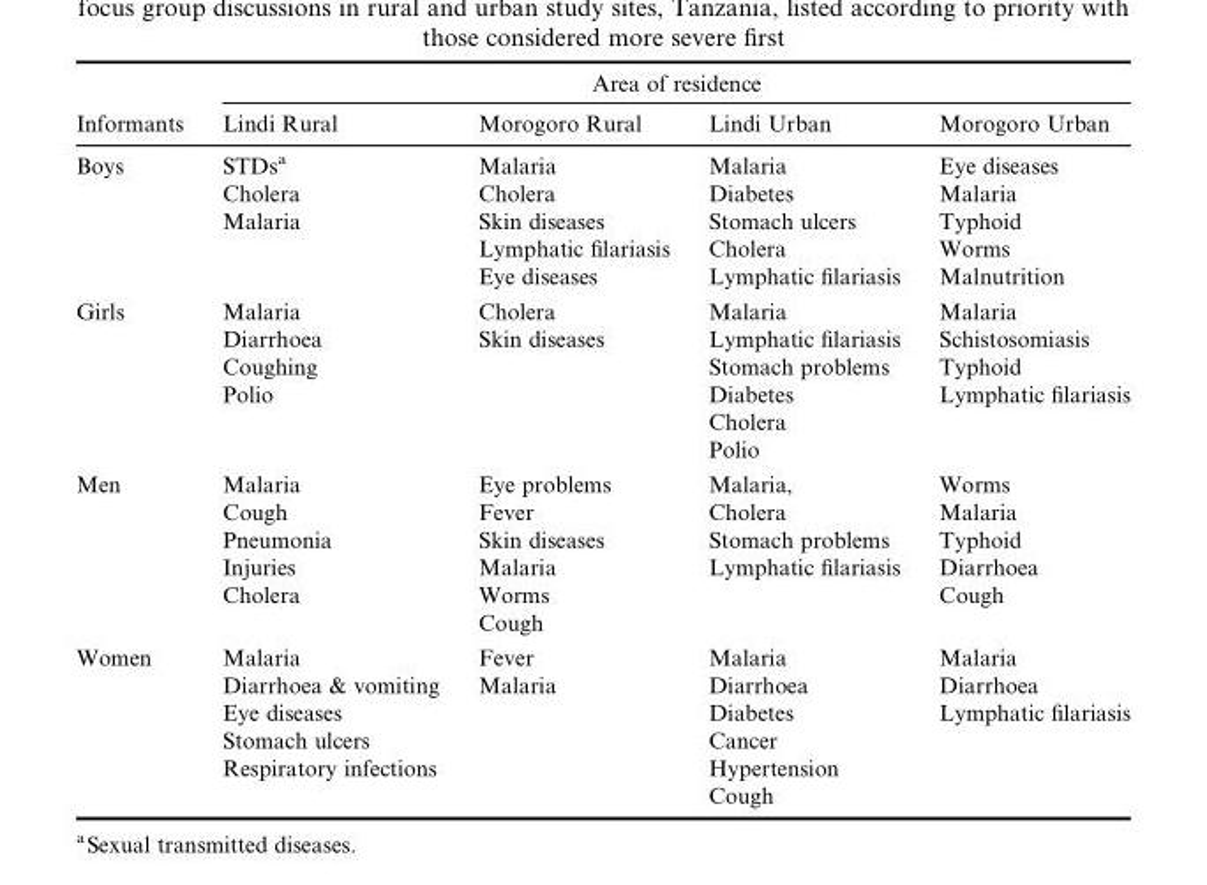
<table><thead><tr><td rowspan="2">Informants</td><td colspan="4">Area of residence</td></tr><tr><td>Lindi Rural</td><td>Morogoro Rural</td><td>Lindi Urban</td><td>Morogoro Urban</td></tr></thead><tbody><tr><td>Boys</td><td>STDs<sup>a</sup> Cholera Malaria</td><td>Malaria Cholera Skin diseases Lymphatic filariasis Eye diseases</td><td>Malaria Diabetes Stomach ulcers Cholera Lymphatic filariasis</td><td>Eye diseases Malaria Typhoid Worms Malnutrition</td></tr><tr><td>Girls</td><td>Malaria Diarrhoea Coughing Polio</td><td>Cholera Skin diseases</td><td>Malaria Lymphatic filariasis Stomach problems Diabetes Cholera Polio</td><td>Malaria Schistosomiasis Typhoid Lymphatic filariasis</td></tr><tr><td>Men</td><td>Malaria Cough Pneumonia Injuries Cholera</td><td>Eye problems Fever Skin diseases Malaria Worms Cough</td><td>Malaria, Cholera Stomach problems Lymphatic filariasis</td><td>Worms Malaria Typhoid Diarrhoea Cough</td></tr><tr><td>Women</td><td>Malaria Diarrhoea &amp; vomiting Eye diseases Stomach ulcers Respiratory infections</td><td>Fever Malaria</td><td>Malaria Diarrhoea Diabetes Cancer Hypertension Cough</td><td>Malaria Diarrhoea Lymphatic filariasis</td></tr></tbody></table>